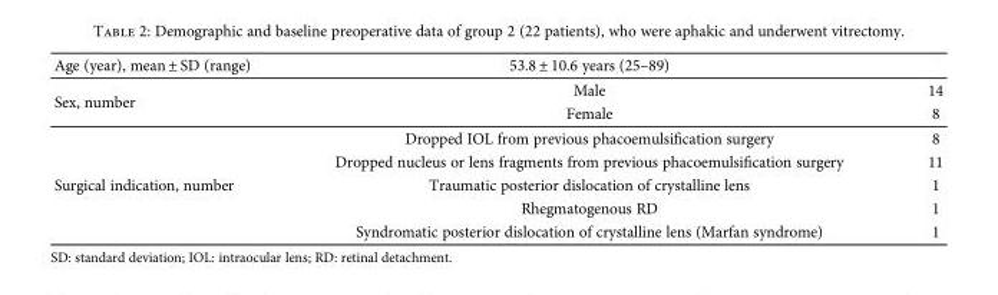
<table><tbody><tr><td>Age (year), mean ± SD (range)</td><td>53.8 ± 10.6 years (25–89)</td><td></td></tr><tr><td rowspan="2">Sex, number</td><td>Male</td><td>14</td></tr><tr><td>Female</td><td>8</td></tr><tr><td rowspan="5">Surgical indication, number</td><td>Dropped IOL from previous phacoemulsification surgery</td><td>8</td></tr><tr><td>Dropped nucleus or lens fragments from previous phacoemulsification surgery</td><td>11</td></tr><tr><td>Traumatic posterior dislocation of crystalline lens</td><td>1</td></tr><tr><td>Rhegmatogenous RD</td><td>1</td></tr><tr><td>Syndromatic posterior dislocation of crystalline lens (Marfan syndrome)</td><td>1</td></tr></tbody></table>